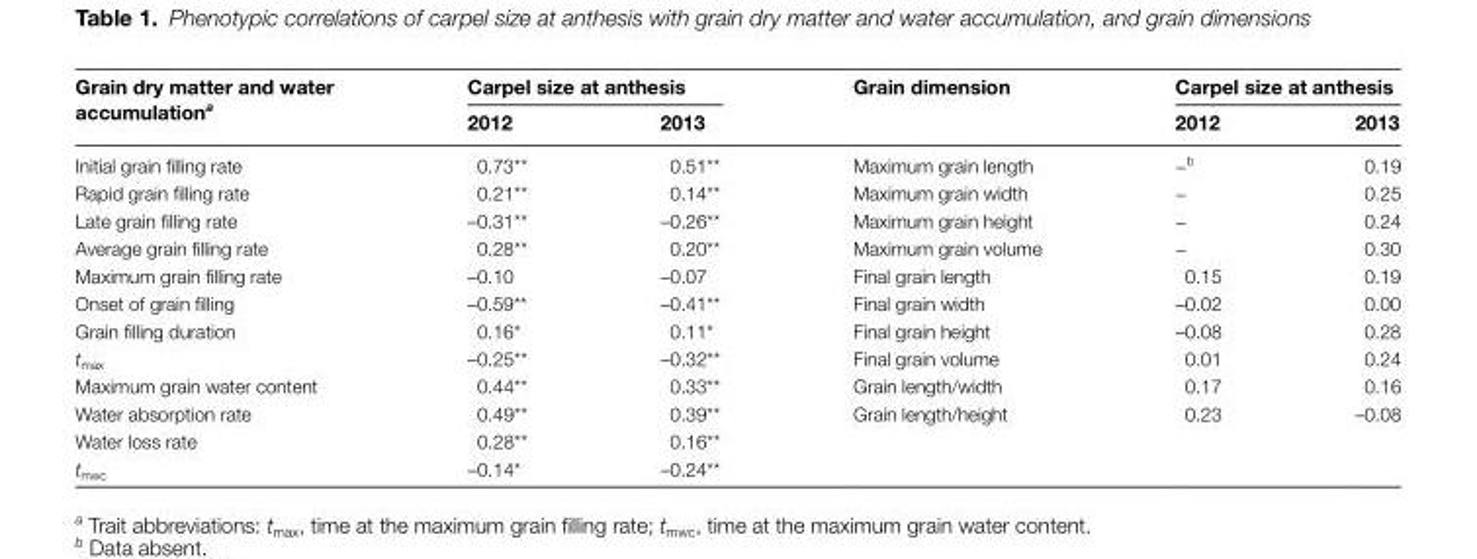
<table><thead><tr><td rowspan="2">Grain dry matter and water accumulation<sup>a</sup></td><td colspan="2">Carpel size at anthesis</td><td rowspan="2">Grain dimension</td><td colspan="2">Carpel size at anthesis</td></tr><tr><td>2012</td><td>2013</td><td>2012</td><td>2013</td></tr></thead><tbody><tr><td>Initial grain filling rate</td><td>0.73**</td><td>0.51**</td><td>Maximum grain length</td><td>−<sup>b</sup></td><td>0.19</td></tr><tr><td>Rapid grain filling rate</td><td>0.21**</td><td>0.14**</td><td>Maximum grain width</td><td>−</td><td>0.25</td></tr><tr><td>Late grain filling rate</td><td>–0.31**</td><td>–0.26**</td><td>Maximum grain height</td><td>−</td><td>0.24</td></tr><tr><td>Average grain filling rate</td><td>0.28**</td><td>0.20**</td><td>Maximum grain volume</td><td>−</td><td>0.30</td></tr><tr><td>Maximum grain filling rate</td><td>–0.10</td><td>–0.07</td><td>Final grain length</td><td>0.15</td><td>0.19</td></tr><tr><td>Onset of grain filling</td><td>–0.59**</td><td>–0.41**</td><td>Final grain width</td><td>–0.02</td><td>0.00</td></tr><tr><td>Grain filling duration</td><td>0.16*</td><td>0.11*</td><td>Final grain height</td><td>–0.08</td><td>0.28</td></tr><tr><td>t<sub>max</sub></td><td>–0.25**</td><td>–0.32**</td><td>Final grain volume</td><td>0.01</td><td>0.24</td></tr><tr><td>Maximum grain water content</td><td>0.44**</td><td>0.33**</td><td>Grain length/width</td><td>0.17</td><td>0.16</td></tr><tr><td>Water absorption rate</td><td>0.49**</td><td>0.39**</td><td>Grain length/height</td><td>0.23</td><td>–0.08</td></tr><tr><td>Water loss rate</td><td>0.28**</td><td>0.16**</td><td></td><td></td><td></td></tr><tr><td>t<sub>mwc</sub></td><td>–0.14*</td><td>–0.24**</td><td></td><td></td><td></td></tr></tbody></table>